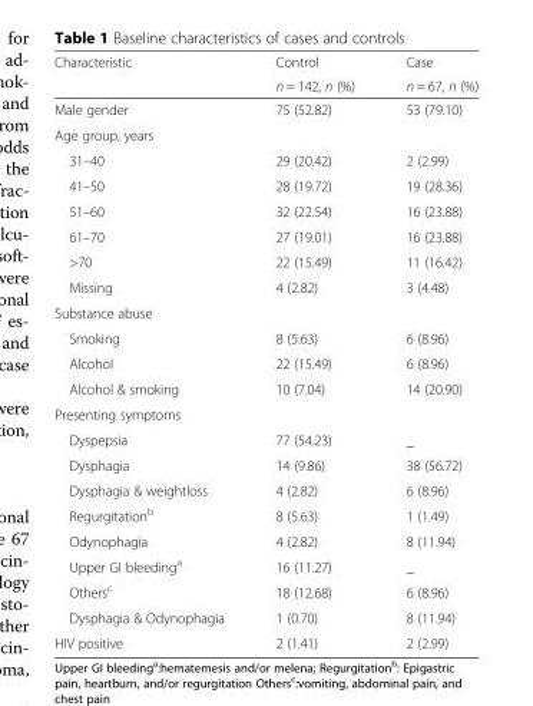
<table><thead><tr><td rowspan="2">Characteristic</td><td rowspan="2">Control n = 142, n (%)</td><td rowspan="2">Case n = 67, n (%)</td></tr><tr></tr></thead><tbody><tr><td>Male gender</td><td>75 (52.82)</td><td>53 (79.10)</td></tr><tr><td colspan="3">Age group, years</td></tr><tr><td>31–40</td><td>29 (20.42)</td><td>2 (2.99)</td></tr><tr><td>41–50</td><td>28 (19.72)</td><td>19 (28.36)</td></tr><tr><td>51–60</td><td>32 (22.54)</td><td>16 (23.88)</td></tr><tr><td>61–70</td><td>27 (19.01)</td><td>16 (23.88)</td></tr><tr><td>&gt;70</td><td>22 (15.49)</td><td>11 (16.42)</td></tr><tr><td>Missing</td><td>4 (2.82)</td><td>3 (4.48)</td></tr><tr><td colspan="3">Substance abuse</td></tr><tr><td>Smoking</td><td>8 (5.63)</td><td>6 (8.96)</td></tr><tr><td>Alcohol</td><td>22 (15.49)</td><td>6 (8.96)</td></tr><tr><td>Alcohol &amp; smoking</td><td>10 (7.04)</td><td>14 (20.90)</td></tr><tr><td colspan="3">Presenting symptoms</td></tr><tr><td>Dyspepsia</td><td>77 (54.23)</td><td>_</td></tr><tr><td>Dysphagia</td><td>14 (9.86)</td><td>38 (56.72)</td></tr><tr><td>Dysphagia &amp; weightloss</td><td>4 (2.82)</td><td>6 (8.96)</td></tr><tr><td>Regurgitation<sup>b</sup></td><td>8 (5.63)</td><td>1 (1.49)</td></tr><tr><td>Odynophagia</td><td>4 (2.82)</td><td>8 (11.94)</td></tr><tr><td>Upper GI bleeding<sup>a</sup></td><td>16 (11.27)</td><td>_</td></tr><tr><td>Others<sup>c</sup></td><td>18 (12.68)</td><td>6 (8.96)</td></tr><tr><td>Dysphagia &amp; Odynophagia</td><td>1 (0.70)</td><td>8 (11.94)</td></tr><tr><td>HIV positive</td><td>2 (1.41)</td><td>2 (2.99)</td></tr></tbody></table>